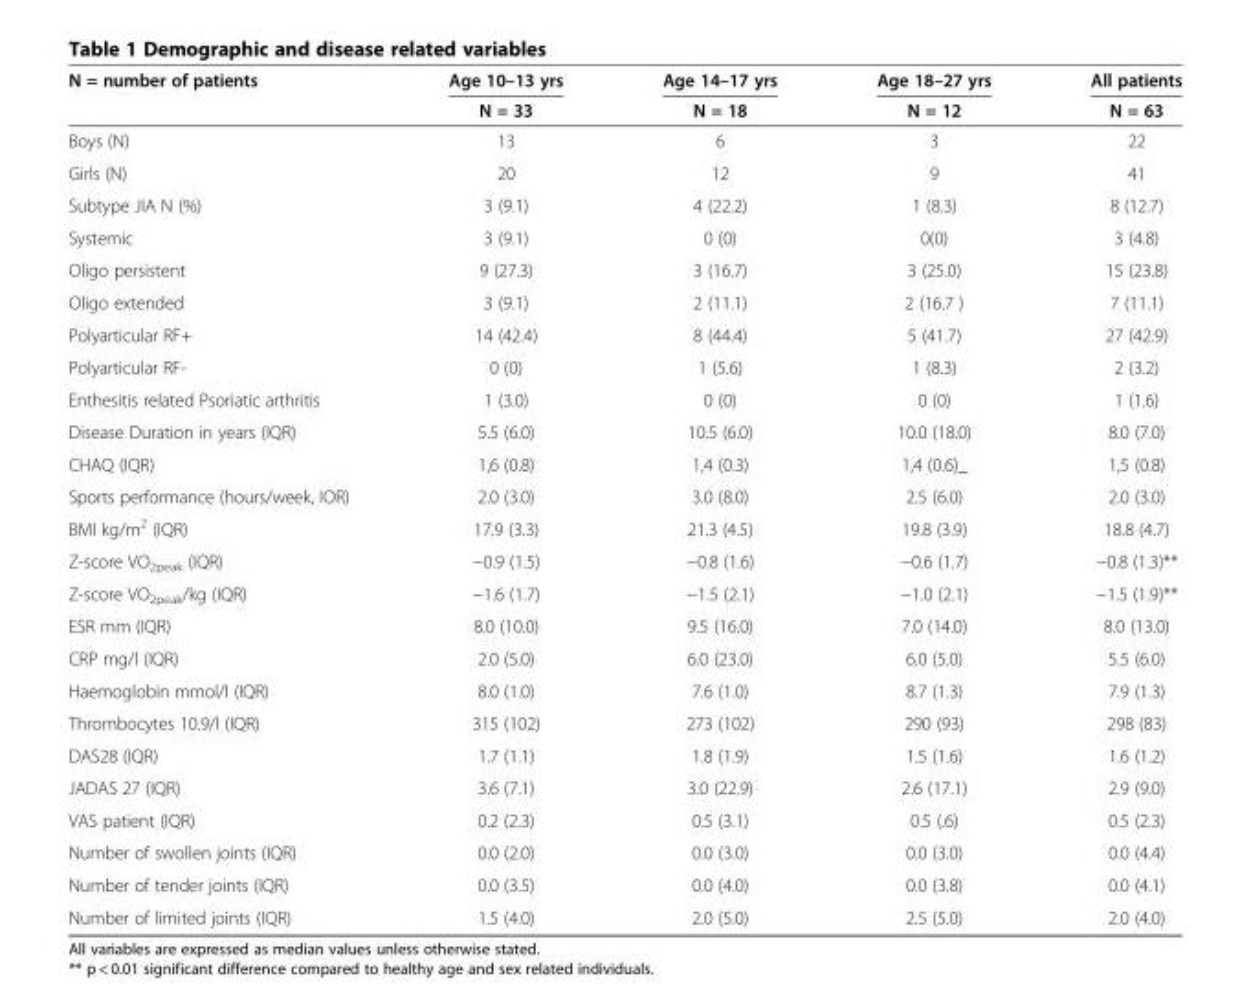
<table><thead><tr><td rowspan="2">N = number of patients</td><td rowspan="2">Age 10–13 yrs N = 33</td><td rowspan="2">Age 14–17 yrs N = 18</td><td rowspan="2">Age 18–27 yrs N = 12</td><td rowspan="2">All patients N = 63</td></tr><tr></tr></thead><tbody><tr><td>Boys (N)</td><td>13</td><td>6</td><td>3</td><td>22</td></tr><tr><td>Girls (N)</td><td>20</td><td>12</td><td>9</td><td>41</td></tr><tr><td>Subtype JIA N (%)</td><td>3 (9.1)</td><td>4 (22.2)</td><td>1 (8.3)</td><td>8 (12.7)</td></tr><tr><td>Systemic</td><td>3 (9.1)</td><td>0 (0)</td><td>0(0)</td><td>3 (4.8)</td></tr><tr><td>Oligo persistent</td><td>9 (27.3)</td><td>3 (16.7)</td><td>3 (25.0)</td><td>15 (23.8)</td></tr><tr><td>Oligo extended</td><td>3 (9.1)</td><td>2 (11.1)</td><td>2 (16.7 )</td><td>7 (11.1)</td></tr><tr><td>Polyarticular RF+</td><td>14 (42.4)</td><td>8 (44.4)</td><td>5 (41.7)</td><td>27 (42.9)</td></tr><tr><td>Polyarticular RF-</td><td>0 (0)</td><td>1 (5.6)</td><td>1 (8.3)</td><td>2 (3.2)</td></tr><tr><td>Enthesitis related Psoriatic arthritis</td><td>1 (3.0)</td><td>0 (0)</td><td>0 (0)</td><td>1 (1.6)</td></tr><tr><td>Disease Duration in years (IQR)</td><td>5.5 (6.0)</td><td>10.5 (6.0)</td><td>10.0 (18.0)</td><td>8.0 (7.0)</td></tr><tr><td>CHAQ (IQR)</td><td>1,6 (0.8)</td><td>1,4 (0.3)</td><td>1,4 (0.6)_</td><td>1,5 (0.8)</td></tr><tr><td>Sports performance (hours/week, IOR)</td><td>2.0 (3.0)</td><td>3.0 (8.0)</td><td>2.5 (6.0)</td><td>2.0 (3.0)</td></tr><tr><td>BMI kg/m<sup>2</sup> (IQR)</td><td>17.9 (3.3)</td><td>21.3 (4.5)</td><td>19.8 (3.9)</td><td>18.8 (4.7)</td></tr><tr><td>Z-score VO<sub>2peak</sub> (IQR)</td><td>−0.9 (1.5)</td><td>−0.8 (1.6)</td><td>−0.6 (1.7)</td><td>−0.8 (1.3)**</td></tr><tr><td>Z-score VO<sub>2peak</sub>/kg (IQR)</td><td>−1.6 (1.7)</td><td>−1.5 (2.1)</td><td>−1.0 (2.1)</td><td>−1.5 (1.9)**</td></tr><tr><td>ESR mm (IQR)</td><td>8.0 (10.0)</td><td>9.5 (16.0)</td><td>7.0 (14.0)</td><td>8.0 (13.0)</td></tr><tr><td>CRP mg/l (IQR)</td><td>2.0 (5.0)</td><td>6.0 (23.0)</td><td>6.0 (5.0)</td><td>5.5 (6.0)</td></tr><tr><td>Haemoglobin mmol/l (IQR)</td><td>8.0 (1.0)</td><td>7.6 (1.0)</td><td>8.7 (1.3)</td><td>7.9 (1.3)</td></tr><tr><td>Thrombocytes 10.9/l (IQR)</td><td>315 (102)</td><td>273 (102)</td><td>290 (93)</td><td>298 (83)</td></tr><tr><td>DAS28 (IQR)</td><td>1.7 (1.1)</td><td>1.8 (1.9)</td><td>1.5 (1.6)</td><td>1.6 (1.2)</td></tr><tr><td>JADAS 27 (IQR)</td><td>3.6 (7.1)</td><td>3.0 (22.9)</td><td>2.6 (17.1)</td><td>2.9 (9.0)</td></tr><tr><td>VAS patient (IQR)</td><td>0.2 (2.3)</td><td>0.5 (3.1)</td><td>0.5 (.6)</td><td>0.5 (2.3)</td></tr><tr><td>Number of swollen joints (IQR)</td><td>0.0 (2.0)</td><td>0.0 (3.0)</td><td>0.0 (3.0)</td><td>0.0 (4.4)</td></tr><tr><td>Number of tender joints (IQR)</td><td>0.0 (3.5)</td><td>0.0 (4.0)</td><td>0.0 (3.8)</td><td>0.0 (4.1)</td></tr><tr><td>Number of limited joints (IQR)</td><td>1.5 (4.0)</td><td>2.0 (5.0)</td><td>2.5 (5.0)</td><td>2.0 (4.0)</td></tr></tbody></table>